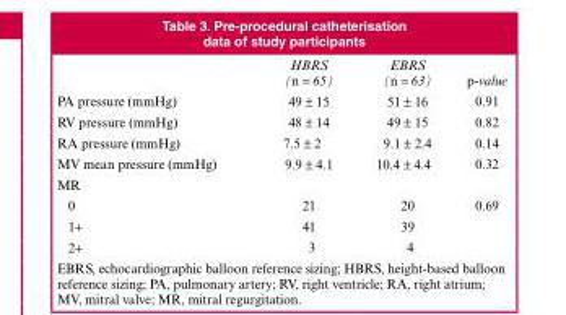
<table><thead><tr><td></td><td>HBRS (n = 65)</td><td>EBRS (n = 63)</td><td>p-value</td></tr></thead><tbody><tr><td>PA pressure (mmHg)</td><td>49 ± 15</td><td>51 ± 16</td><td>0.91</td></tr><tr><td>RV pressure (mmHg)</td><td>48 ± 14</td><td>49 ± 15</td><td>0.82</td></tr><tr><td>RA pressure (mmHg)</td><td>7.5 ± 2</td><td>9.1 ± 2.4</td><td>0.14</td></tr><tr><td>MV mean pressure (mmHg)</td><td>9.9 ± 4.1</td><td>10.4 ± 4.4</td><td>0.32</td></tr><tr><td colspan="4">MR</td></tr><tr><td>0</td><td>21</td><td>20</td><td>0.69</td></tr><tr><td>1+</td><td>41</td><td>39</td><td></td></tr><tr><td>2+</td><td>3</td><td>4</td><td></td></tr></tbody></table>